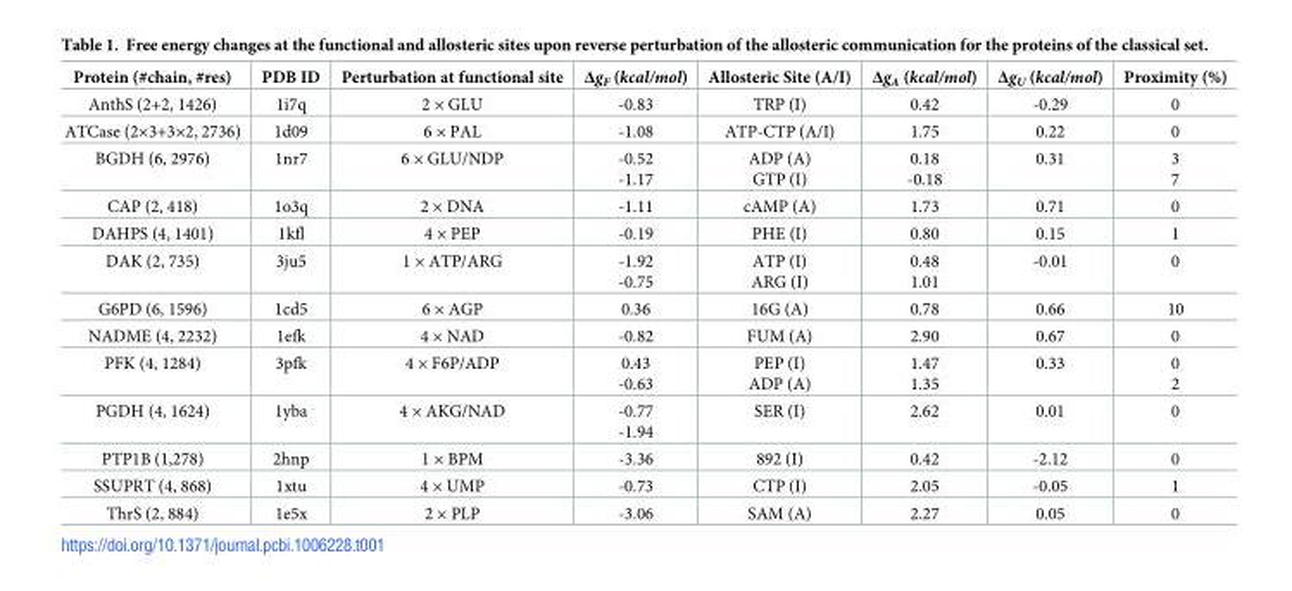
<table><thead><tr><td>Protein (#chain, #res)</td><td>PDB ID</td><td>Perturbation at functional site</td><td>Δg<sub>F</sub> (kcal/mol)</td><td>Allosteric Site (A/I)</td><td>Δg<sub>A</sub> (kcal/mol)</td><td>Δg<sub>U</sub> (kcal/mol)</td><td>Proximity (%)</td></tr></thead><tbody><tr><td>AnthS (2+2, 1426)</td><td>1i7q</td><td>2 × GLU</td><td>-0.83</td><td>TRP (I)</td><td>0.42</td><td>-0.29</td><td>0</td></tr><tr><td>ATCase (2×3+3×2, 2736)</td><td>1d09</td><td>6 × PAL</td><td>-1.08</td><td>ATP-CTP (A/I)</td><td>1.75</td><td>0.22</td><td>0</td></tr><tr><td>BGDH (6, 2976)</td><td>1nr7</td><td>6 × GLU/NDP</td><td>-0.52 -1.17</td><td>ADP (A) GTP (I)</td><td>0.18 -0.18</td><td>0.31</td><td>3 7</td></tr><tr><td>CAP (2, 418)</td><td>1o3q</td><td>2 × DNA</td><td>-1.11</td><td>cAMP (A)</td><td>1.73</td><td>0.71</td><td>0</td></tr><tr><td>DAHPS (4, 1401)</td><td>1kfl</td><td>4 × PEP</td><td>-0.19</td><td>PHE (I)</td><td>0.80</td><td>0.15</td><td>1</td></tr><tr><td>DAK (2, 735)</td><td>3ju5</td><td>1 × ATP/ARG</td><td>-1.92 -0.75</td><td>ATP (I) ARG (I)</td><td>0.48 1.01</td><td>-0.01</td><td>0</td></tr><tr><td>G6PD (6, 1596)</td><td>1cd5</td><td>6 × AGP</td><td>0.36</td><td>16G (A)</td><td>0.78</td><td>0.66</td><td>10</td></tr><tr><td>NADME (4, 2232)</td><td>1efk</td><td>4 × NAD</td><td>-0.82</td><td>FUM (A)</td><td>2.90</td><td>0.67</td><td>0</td></tr><tr><td>PFK (4, 1284)</td><td>3pfk</td><td>4 × F6P/ADP</td><td>0.43 -0.63</td><td>PEP (I) ADP (A)</td><td>1.47 1.35</td><td>0.33</td><td>0 2</td></tr><tr><td>PGDH (4, 1624)</td><td>1yba</td><td>4 × AKG/NAD</td><td>-0.77 -1.94</td><td>SER (I)</td><td>2.62</td><td>0.01</td><td>0</td></tr><tr><td>PTP1B (1,278)</td><td>2hnp</td><td>1 × BPM</td><td>-3.36</td><td>892 (I)</td><td>0.42</td><td>-2.12</td><td>0</td></tr><tr><td>SSUPRT (4, 868)</td><td>1xtu</td><td>4 × UMP</td><td>-0.73</td><td>CTP (I)</td><td>2.05</td><td>-0.05</td><td>1</td></tr><tr><td>ThrS (2, 884)</td><td>1e5x</td><td>2 × PLP</td><td>-3.06</td><td>SAM (A)</td><td>2.27</td><td>0.05</td><td>0</td></tr></tbody></table>